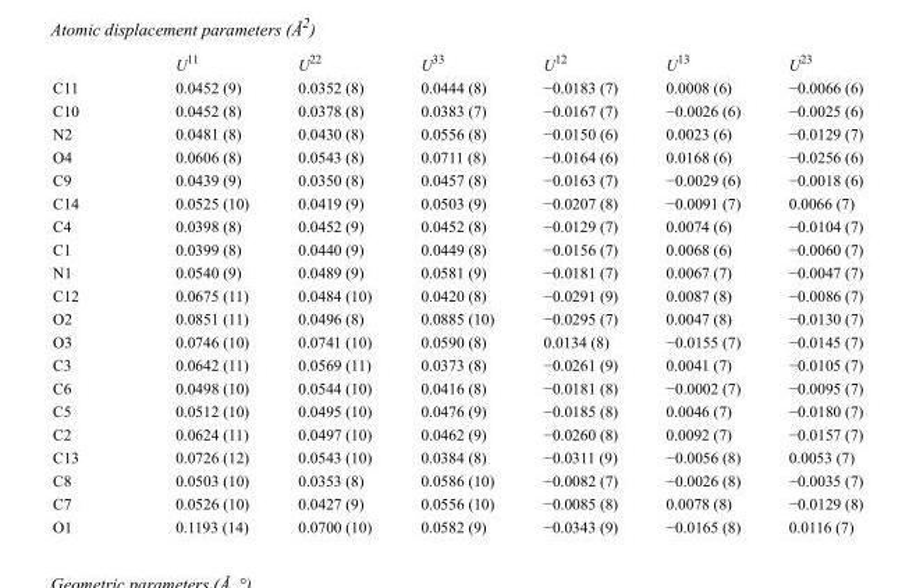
<table><thead><tr><td></td><td>U<sup>11</sup></td><td>U<sup>22</sup></td><td>U<sup>33</sup></td><td>U<sup>12</sup></td><td>U<sup>13</sup></td><td>U<sup>23</sup></td></tr></thead><tbody><tr><td>C11</td><td>0.0452 (9)</td><td>0.0352 (8)</td><td>0.0444 (8)</td><td>−0.0183 (7)</td><td>0.0008 (6)</td><td>−0.0066 (6)</td></tr><tr><td>C10</td><td>0.0452 (8)</td><td>0.0378 (8)</td><td>0.0383 (7)</td><td>−0.0167 (7)</td><td>−0.0026 (6)</td><td>−0.0025 (6)</td></tr><tr><td>N2</td><td>0.0481 (8)</td><td>0.0430 (8)</td><td>0.0556 (8)</td><td>−0.0150 (6)</td><td>0.0023 (6)</td><td>−0.0129 (7)</td></tr><tr><td>O4</td><td>0.0606 (8)</td><td>0.0543 (8)</td><td>0.0711 (8)</td><td>−0.0164 (6)</td><td>0.0168 (6)</td><td>−0.0256 (6)</td></tr><tr><td>C9</td><td>0.0439 (9)</td><td>0.0350 (8)</td><td>0.0457 (8)</td><td>−0.0163 (7)</td><td>−0.0029 (6)</td><td>−0.0018 (6)</td></tr><tr><td>C14</td><td>0.0525 (10)</td><td>0.0419 (9)</td><td>0.0503 (9)</td><td>−0.0207 (8)</td><td>−0.0091 (7)</td><td>0.0066 (7)</td></tr><tr><td>C4</td><td>0.0398 (8)</td><td>0.0452 (9)</td><td>0.0452 (8)</td><td>−0.0129 (7)</td><td>0.0074 (6)</td><td>−0.0104 (7)</td></tr><tr><td>C1</td><td>0.0399 (8)</td><td>0.0440 (9)</td><td>0.0449 (8)</td><td>−0.0156 (7)</td><td>0.0068 (6)</td><td>−0.0060 (7)</td></tr><tr><td>N1</td><td>0.0540 (9)</td><td>0.0489 (9)</td><td>0.0581 (9)</td><td>−0.0181 (7)</td><td>0.0067 (7)</td><td>−0.0047 (7)</td></tr><tr><td>C12</td><td>0.0675 (11)</td><td>0.0484 (10)</td><td>0.0420 (8)</td><td>−0.0291 (9)</td><td>0.0087 (8)</td><td>−0.0086 (7)</td></tr><tr><td>O2</td><td>0.0851 (11)</td><td>0.0496 (8)</td><td>0.0885 (10)</td><td>−0.0295 (7)</td><td>0.0047 (8)</td><td>−0.0130 (7)</td></tr><tr><td>O3</td><td>0.0746 (10)</td><td>0.0741 (10)</td><td>0.0590 (8)</td><td>0.0134 (8)</td><td>−0.0155 (7)</td><td>−0.0145 (7)</td></tr><tr><td>C3</td><td>0.0642 (11)</td><td>0.0569 (11)</td><td>0.0373 (8)</td><td>−0.0261 (9)</td><td>0.0041 (7)</td><td>−0.0105 (7)</td></tr><tr><td>C6</td><td>0.0498 (10)</td><td>0.0544 (10)</td><td>0.0416 (8)</td><td>−0.0181 (8)</td><td>−0.0002 (7)</td><td>−0.0095 (7)</td></tr><tr><td>C5</td><td>0.0512 (10)</td><td>0.0495 (10)</td><td>0.0476 (9)</td><td>−0.0185 (8)</td><td>0.0046 (7)</td><td>−0.0180 (7)</td></tr><tr><td>C2</td><td>0.0624 (11)</td><td>0.0497 (10)</td><td>0.0462 (9)</td><td>−0.0260 (8)</td><td>0.0092 (7)</td><td>−0.0157 (7)</td></tr><tr><td>C13</td><td>0.0726 (12)</td><td>0.0543 (10)</td><td>0.0384 (8)</td><td>−0.0311 (9)</td><td>−0.0056 (8)</td><td>0.0053 (7)</td></tr><tr><td>C8</td><td>0.0503 (10)</td><td>0.0353 (8)</td><td>0.0586 (10)</td><td>−0.0082 (7)</td><td>−0.0026 (8)</td><td>−0.0035 (7)</td></tr><tr><td>C7</td><td>0.0526 (10)</td><td>0.0427 (9)</td><td>0.0556 (10)</td><td>−0.0085 (8)</td><td>0.0078 (8)</td><td>−0.0129 (8)</td></tr><tr><td>O1</td><td>0.1193 (14)</td><td>0.0700 (10)</td><td>0.0582 (9)</td><td>−0.0343 (9)</td><td>−0.0165 (8)</td><td>0.0116 (7)</td></tr></tbody></table>